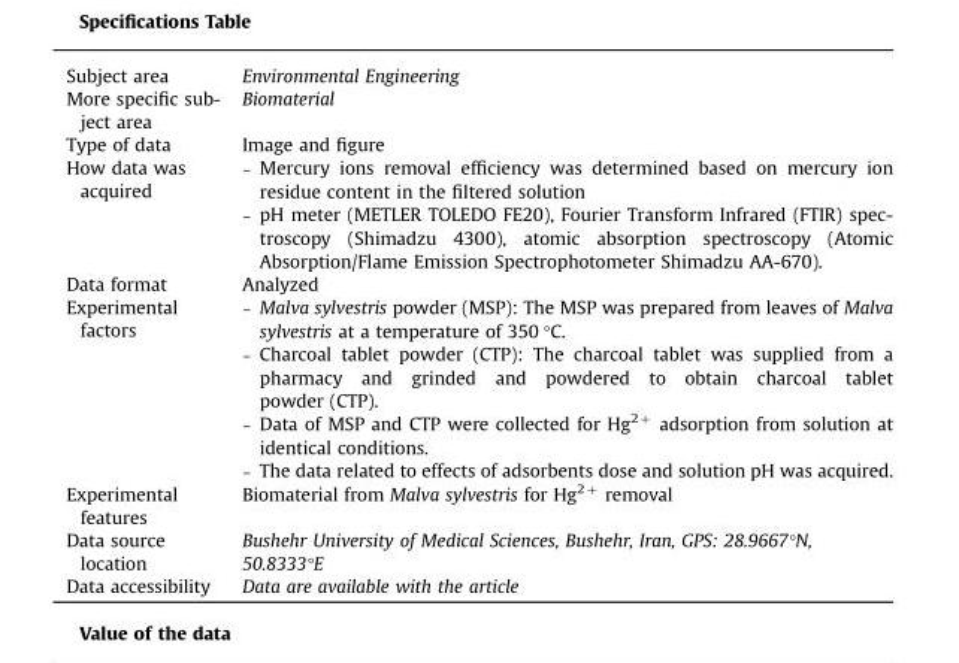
<table><tbody><tr><td>Subject area</td><td>Environmental Engineering</td></tr><tr><td>More specific sub- ject area</td><td>Biomaterial</td></tr><tr><td>Type of data</td><td>Image and figure</td></tr><tr><td>How data was acquired</td><td>– Mercury ions removal efficiency was determined based on mercury ion residue content in the filtered solution – pH meter (METLER TOLEDO FE20), Fourier Transform Infrared (FTIR) spec- troscopy (Shimadzu 4300), atomic absorption spectroscopy (Atomic Absorption/Flame Emission Spectrophotometer Shimadzu AA-670).</td></tr><tr><td>Data format</td><td>Analyzed</td></tr><tr><td>Experimental factors</td><td>– Malva sylvestris powder (MSP): The MSP was prepared from leaves of Malva sylvestris at a temperature of 350 °C. – Charcoal tablet powder (CTP): The charcoal tablet was supplied from a pharmacy and grinded and powdered to obtain charcoal tablet powder (CTP). – Data of MSP and CTP were collected for Hg<sup>2+</sup> adsorption from solution at identical conditions. – The data related to effects of adsorbents dose and solution pH was acquired.</td></tr><tr><td>Experimental features</td><td>Biomaterial from Malva sylvestris for Hg<sup>2+</sup> removal</td></tr><tr><td>Data source location</td><td>Bushehr University of Medical Sciences, Bushehr, Iran, GPS: 28.9667°N, 50.8333°E</td></tr><tr><td>Data accessibility</td><td>Data are available with the article</td></tr></tbody></table>